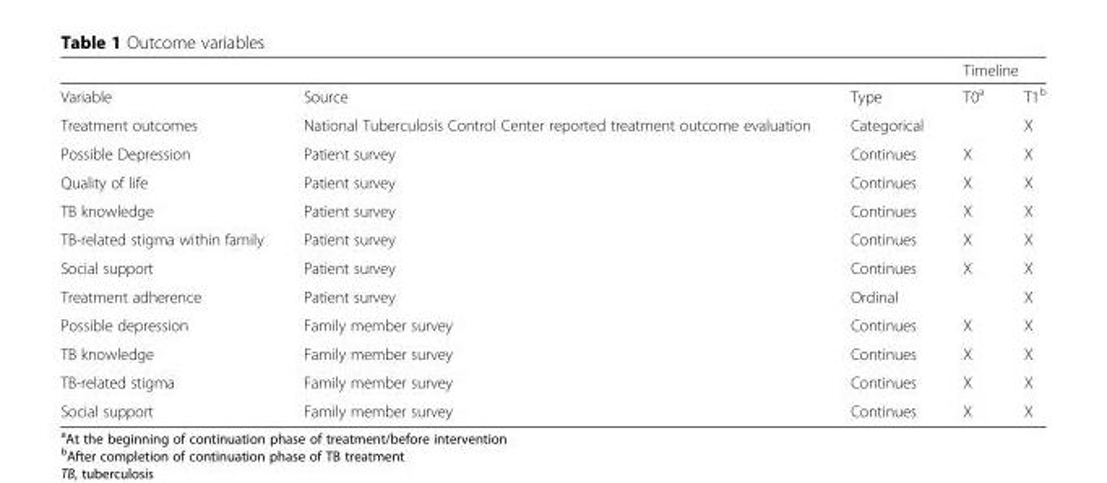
<table><thead><tr><td rowspan="2">Variable</td><td rowspan="2">Source</td><td rowspan="2">Type</td><td colspan="2">Timeline</td></tr><tr><td>T0<sup>a</sup></td><td>T1<sup>b</sup></td></tr></thead><tbody><tr><td>Treatment outcomes</td><td>National Tuberculosis Control Center reported treatment outcome evaluation</td><td>Categorical</td><td></td><td>X</td></tr><tr><td>Possible Depression</td><td>Patient survey</td><td>Continues</td><td>X</td><td>X</td></tr><tr><td>Quality of life</td><td>Patient survey</td><td>Continues</td><td>X</td><td>X</td></tr><tr><td>TB knowledge</td><td>Patient survey</td><td>Continues</td><td>X</td><td>X</td></tr><tr><td>TB-related stigma within family</td><td>Patient survey</td><td>Continues</td><td>X</td><td>X</td></tr><tr><td>Social support</td><td>Patient survey</td><td>Continues</td><td>X</td><td>X</td></tr><tr><td>Treatment adherence</td><td>Patient survey</td><td>Ordinal</td><td></td><td>X</td></tr><tr><td>Possible depression</td><td>Family member survey</td><td>Continues</td><td>X</td><td>X</td></tr><tr><td>TB knowledge</td><td>Family member survey</td><td>Continues</td><td>X</td><td>X</td></tr><tr><td>TB-related stigma</td><td>Family member survey</td><td>Continues</td><td>X</td><td>X</td></tr><tr><td>Social support</td><td>Family member survey</td><td>Continues</td><td>X</td><td>X</td></tr></tbody></table>